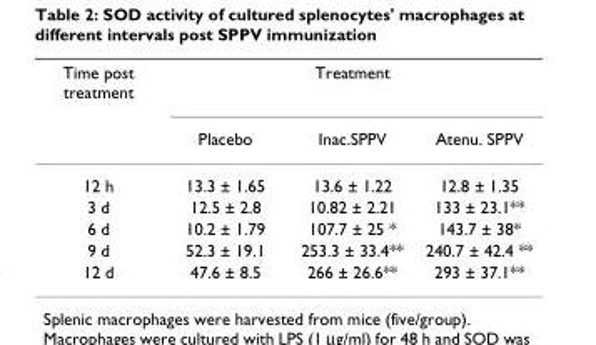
<table><thead><tr><td rowspan="2">Time post treatment</td><td colspan="3">Treatment</td></tr><tr><td>Placebo</td><td>Inac.SPPV</td><td>Atenu. SPPV</td></tr></thead><tbody><tr><td>12 h</td><td>13.3 ± 1.65</td><td>13.6 ± 1.22</td><td>12.8 ± 1.35</td></tr><tr><td>3 d</td><td>12.5 ± 2.8</td><td>10.82 ± 2.21</td><td>133 ± 23.1**</td></tr><tr><td>6 d</td><td>10.2 ± 1.79</td><td>107.7 ± 25 *</td><td>143.7 ± 38*</td></tr><tr><td>9 d</td><td>52.3 ± 19.1</td><td>253.3 ± 33.4**</td><td>240.7 ± 42.4 **</td></tr><tr><td>12 d</td><td>47.6 ± 8.5</td><td>266 ± 26.6**</td><td>293 ± 37.1**</td></tr></tbody></table>